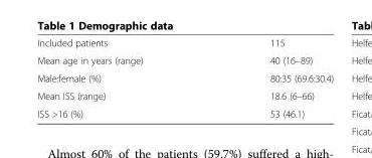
<table><tbody><tr><td>Included patients</td><td>115</td></tr><tr><td>Mean age in years (range)</td><td>40 (16–89)</td></tr><tr><td>Male:female (%)</td><td>80:35 (69.6:30.4)</td></tr><tr><td>Mean ISS (range)</td><td>18.6 (6–66)</td></tr><tr><td>ISS &gt;16 (%)</td><td>53 (46.1)</td></tr></tbody></table>